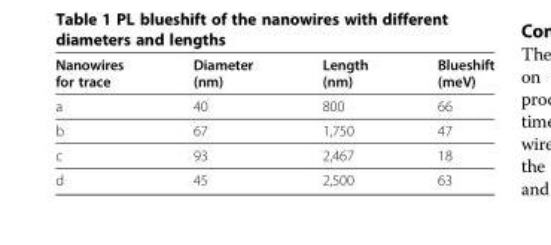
<table><thead><tr><td>Nanowires for trace</td><td>Diameter (nm)</td><td>Length (nm)</td><td>Blueshift (meV)</td></tr></thead><tbody><tr><td>a</td><td>40</td><td>800</td><td>66</td></tr><tr><td>b</td><td>67</td><td>1,750</td><td>47</td></tr><tr><td>c</td><td>93</td><td>2,467</td><td>18</td></tr><tr><td>d</td><td>45</td><td>2,500</td><td>63</td></tr></tbody></table>